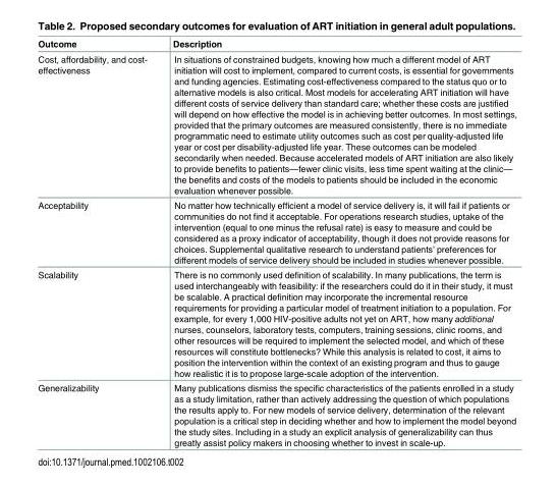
<table><thead><tr><td>Outcome</td><td>Description</td></tr></thead><tbody><tr><td>Cost, affordability, and cost- effectiveness</td><td>In situations of constrained budgets, knowing how much a different model of ART initiation will cost to implement, compared to current costs, is essential for governments and funding agencies. Estimating cost-effectiveness compared to the status quo or to alternative models is also critical. Most models for accelerating ART initiation will have different costs of service delivery than standard care; whether these costs are justified will depend on how effective the model is in achieving better outcomes. In most settings, provided that the primary outcomes are measured consistently, there is no immediate programmatic need to estimate utility outcomes such as cost per quality-adjusted life year or cost per disability-adjusted life year. These outcomes can be modeled secondarily when needed. Because accelerated models of ART initiation are also likely to provide benefits to patients—fewer clinic visits, less time spent waiting at the clinic— the benefits and costs of the models to patients should be included in the economic evaluation whenever possible.</td></tr><tr><td>Acceptability</td><td>No matter how technically efficient a model of service delivery is, it will fail if patients or communities do not find it acceptable. For operations research studies, uptake of the intervention (equal to one minus the refusal rate) is easy to measure and could be considered as a proxy indicator of acceptability, though it does not provide reasons for choices. Supplemental qualitative research to understand patients’ preferences for different models of service delivery should be included in studies whenever possible.</td></tr><tr><td>Scalability</td><td>There is no commonly used definition of scalability. In many publications, the term is used interchangeably with feasibility: if the researchers could do it in their study, it must be scalable. A practical definition may incorporate the incremental resource requirements for providing a particular model of treatment initiation to a population. For example, for every 1,000 HIV-positive adults not yet on ART, how many additional nurses, counselors, laboratory tests, computers, training sessions, clinic rooms, and other resources will be required to implement the selected model, and which of these resources will constitute bottlenecks? While this analysis is related to cost, it aims to position the intervention within the context of an existing program and thus to gauge how realistic it is to propose large-scale adoption of the intervention.</td></tr><tr><td>Generalizability</td><td>Many publications dismiss the specific characteristics of the patients enrolled in a study as a study limitation, rather than actively addressing the question of which populations the results apply to. For new models of service delivery, determination of the relevant population is a critical step in deciding whether and how to implement the model beyond the study sites. Including in a study an explicit analysis of generalizability can thus greatly assist policy makers in choosing whether to invest in scale-up.</td></tr></tbody></table>